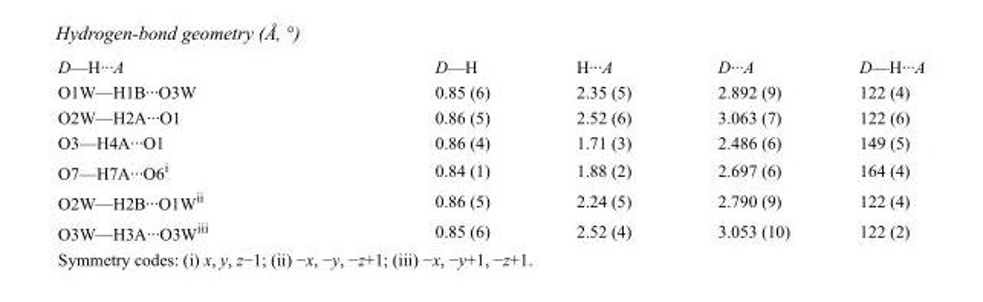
<table><tbody><tr><td>D—H···A</td><td>D—H</td><td>H···A</td><td>D···A</td><td>D—H···A</td></tr><tr><td>O1W—H1B···O3W</td><td>0.85 (6)</td><td>2.35 (5)</td><td>2.892 (9)</td><td>122 (4)</td></tr><tr><td>O2W—H2A···O1</td><td>0.86 (5)</td><td>2.52 (6)</td><td>3.063 (7)</td><td>122 (6)</td></tr><tr><td>O3—H4A···O1</td><td>0.86 (4)</td><td>1.71 (3)</td><td>2.486 (6)</td><td>149 (5)</td></tr><tr><td>O7—H7A···O6<sup>i</sup></td><td>0.84 (1)</td><td>1.88 (2)</td><td>2.697 (6)</td><td>164 (4)</td></tr><tr><td>O2W—H2B···O1W<sup>ii</sup></td><td>0.86 (5)</td><td>2.24 (5)</td><td>2.790 (9)</td><td>122 (4)</td></tr><tr><td>O3W—H3A···O3W<sup>iii</sup></td><td>0.85 (6)</td><td>2.52 (4)</td><td>3.053 (10)</td><td>122 (2)</td></tr></tbody></table>